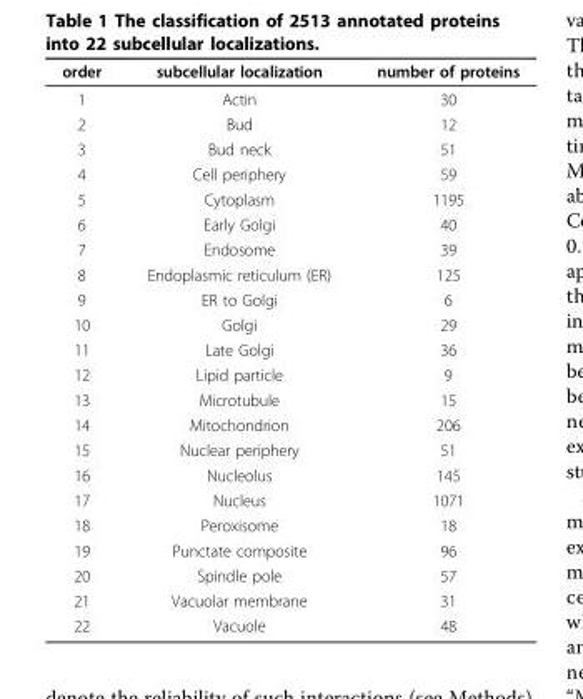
<table><thead><tr><td>order</td><td>subcellular localization</td><td>number of proteins</td></tr></thead><tbody><tr><td>1</td><td>Actin</td><td>30</td></tr><tr><td>2</td><td>Bud</td><td>12</td></tr><tr><td>3</td><td>Bud neck</td><td>51</td></tr><tr><td>4</td><td>Cell periphery</td><td>59</td></tr><tr><td>5</td><td>Cytoplasm</td><td>1195</td></tr><tr><td>6</td><td>Early Golgi</td><td>40</td></tr><tr><td>7</td><td>Endosome</td><td>39</td></tr><tr><td>8</td><td>Endoplasmic reticulum (ER)</td><td>125</td></tr><tr><td>9</td><td>ER to Golgi</td><td>6</td></tr><tr><td>10</td><td>Golgi</td><td>29</td></tr><tr><td>11</td><td>Late Golgi</td><td>36</td></tr><tr><td>12</td><td>Lipid particle</td><td>9</td></tr><tr><td>13</td><td>Microtubule</td><td>15</td></tr><tr><td>14</td><td>Mitochondrion</td><td>206</td></tr><tr><td>15</td><td>Nuclear periphery</td><td>51</td></tr><tr><td>16</td><td>Nucleolus</td><td>145</td></tr><tr><td>17</td><td>Nucleus</td><td>1071</td></tr><tr><td>18</td><td>Peroxisome</td><td>18</td></tr><tr><td>19</td><td>Punctate composite</td><td>96</td></tr><tr><td>20</td><td>Spindle pole</td><td>57</td></tr><tr><td>21</td><td>Vacuolar membrane</td><td>31</td></tr><tr><td>22</td><td>Vacuole</td><td>48</td></tr></tbody></table>